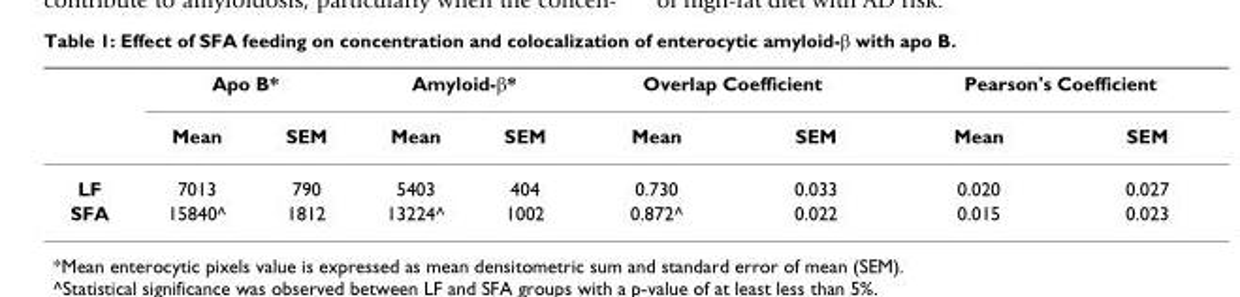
<table><thead><tr><td rowspan="2"></td><td colspan="2">Apo B*</td><td colspan="2">Amyloid-β*</td><td colspan="2">Overlap Coefficient</td><td colspan="2">Pearson&#x27;s Coefficient</td></tr><tr><td>Mean</td><td>SEM</td><td>Mean</td><td>SEM</td><td>Mean</td><td>SEM</td><td>Mean</td><td>SEM</td></tr></thead><tbody><tr><td>LF</td><td>7013</td><td>790</td><td>5403</td><td>404</td><td>0.730</td><td>0.033</td><td>0.020</td><td>0.027</td></tr><tr><td>SFA</td><td>15840^</td><td>1812</td><td>13224^</td><td>1002</td><td>0.872^</td><td>0.022</td><td>0.015</td><td>0.023</td></tr></tbody></table>